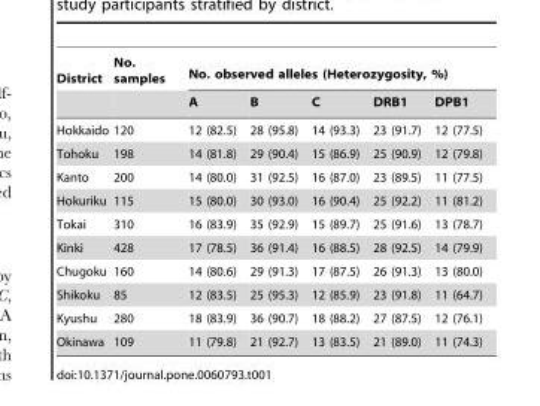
<table><thead><tr><td rowspan="2">District</td><td rowspan="2">No. samples</td><td colspan="5">No. observed alleles (Heterozygosity, %)</td></tr><tr><td>A</td><td>B</td><td>C</td><td>DRB1</td><td>DPB1</td></tr></thead><tbody><tr><td>Hokkaido</td><td>120</td><td>12 (82.5)</td><td>28 (95.8)</td><td>14 (93.3)</td><td>23 (91.7)</td><td>12 (77.5)</td></tr><tr><td>Tohoku</td><td>198</td><td>14 (81.8)</td><td>29 (90.4)</td><td>15 (86.9)</td><td>25 (90.9)</td><td>12 (79.8)</td></tr><tr><td>Kanto</td><td>200</td><td>14 (80.0)</td><td>31 (92.5)</td><td>16 (87.0)</td><td>23 (89.5)</td><td>11 (77.5)</td></tr><tr><td>Hokuriku</td><td>115</td><td>15 (80.0)</td><td>30 (93.0)</td><td>16 (90.4)</td><td>25 (92.2)</td><td>11 (81.2)</td></tr><tr><td>Tokai</td><td>310</td><td>16 (83.9)</td><td>35 (92.9)</td><td>15 (89.7)</td><td>25 (91.6)</td><td>13 (78.7)</td></tr><tr><td>Kinki</td><td>428</td><td>17 (78.5)</td><td>36 (91.4)</td><td>16 (88.5)</td><td>28 (92.5)</td><td>14 (79.9)</td></tr><tr><td>Chugoku</td><td>160</td><td>14 (80.6)</td><td>29 (91.3)</td><td>17 (87.5)</td><td>26 (91.3)</td><td>13 (80.0)</td></tr><tr><td>Shikoku</td><td>85</td><td>12 (83.5)</td><td>25 (95.3)</td><td>12 (85.9)</td><td>23 (91.8)</td><td>11 (64.7)</td></tr><tr><td>Kyushu</td><td>280</td><td>18 (83.9)</td><td>36 (90.7)</td><td>18 (88.2)</td><td>27 (87.5)</td><td>12 (76.1)</td></tr><tr><td>Okinawa</td><td>109</td><td>11 (79.8)</td><td>21 (92.7)</td><td>13 (83.5)</td><td>21 (89.0)</td><td>11 (74.3)</td></tr></tbody></table>